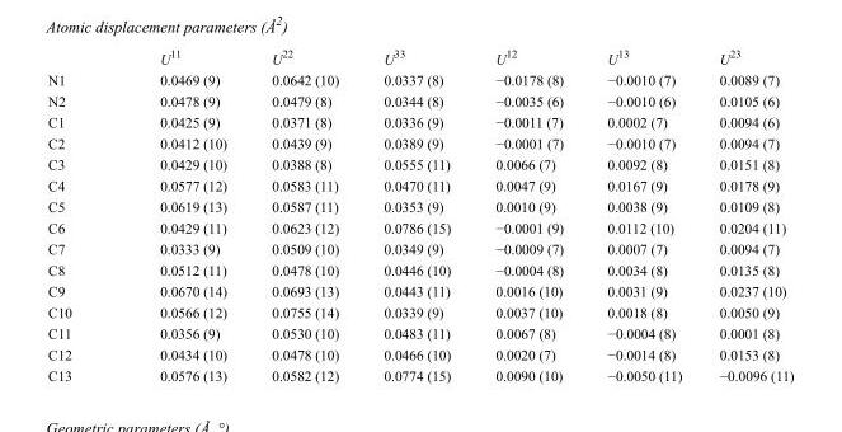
<table><thead><tr><td></td><td>U<sup>11</sup></td><td>U<sup>22</sup></td><td>U<sup>33</sup></td><td>U<sup>12</sup></td><td>U<sup>13</sup></td><td>U<sup>23</sup></td></tr></thead><tbody><tr><td>N1</td><td>0.0469 (9)</td><td>0.0642 (10)</td><td>0.0337 (8)</td><td>−0.0178 (8)</td><td>−0.0010 (7)</td><td>0.0089 (7)</td></tr><tr><td>N2</td><td>0.0478 (9)</td><td>0.0479 (8)</td><td>0.0344 (8)</td><td>−0.0035 (6)</td><td>−0.0010 (6)</td><td>0.0105 (6)</td></tr><tr><td>C1</td><td>0.0425 (9)</td><td>0.0371 (8)</td><td>0.0336 (9)</td><td>−0.0011 (7)</td><td>0.0002 (7)</td><td>0.0094 (6)</td></tr><tr><td>C2</td><td>0.0412 (10)</td><td>0.0439 (9)</td><td>0.0389 (9)</td><td>−0.0001 (7)</td><td>−0.0010 (7)</td><td>0.0094 (7)</td></tr><tr><td>C3</td><td>0.0429 (10)</td><td>0.0388 (8)</td><td>0.0555 (11)</td><td>0.0066 (7)</td><td>0.0092 (8)</td><td>0.0151 (8)</td></tr><tr><td>C4</td><td>0.0577 (12)</td><td>0.0583 (11)</td><td>0.0470 (11)</td><td>0.0047 (9)</td><td>0.0167 (9)</td><td>0.0178 (9)</td></tr><tr><td>C5</td><td>0.0619 (13)</td><td>0.0587 (11)</td><td>0.0353 (9)</td><td>0.0010 (9)</td><td>0.0038 (9)</td><td>0.0109 (8)</td></tr><tr><td>C6</td><td>0.0429 (11)</td><td>0.0623 (12)</td><td>0.0786 (15)</td><td>−0.0001 (9)</td><td>0.0112 (10)</td><td>0.0204 (11)</td></tr><tr><td>C7</td><td>0.0333 (9)</td><td>0.0509 (10)</td><td>0.0349 (9)</td><td>−0.0009 (7)</td><td>0.0007 (7)</td><td>0.0094 (7)</td></tr><tr><td>C8</td><td>0.0512 (11)</td><td>0.0478 (10)</td><td>0.0446 (10)</td><td>−0.0004 (8)</td><td>0.0034 (8)</td><td>0.0135 (8)</td></tr><tr><td>C9</td><td>0.0670 (14)</td><td>0.0693 (13)</td><td>0.0443 (11)</td><td>0.0016 (10)</td><td>0.0031 (9)</td><td>0.0237 (10)</td></tr><tr><td>C10</td><td>0.0566 (12)</td><td>0.0755 (14)</td><td>0.0339 (9)</td><td>0.0037 (10)</td><td>0.0018 (8)</td><td>0.0050 (9)</td></tr><tr><td>C11</td><td>0.0356 (9)</td><td>0.0530 (10)</td><td>0.0483 (11)</td><td>0.0067 (8)</td><td>−0.0004 (8)</td><td>0.0001 (8)</td></tr><tr><td>C12</td><td>0.0434 (10)</td><td>0.0478 (10)</td><td>0.0466 (10)</td><td>0.0020 (7)</td><td>−0.0014 (8)</td><td>0.0153 (8)</td></tr><tr><td>C13</td><td>0.0576 (13)</td><td>0.0582 (12)</td><td>0.0774 (15)</td><td>0.0090 (10)</td><td>−0.0050 (11)</td><td>−0.0096 (11)</td></tr></tbody></table>